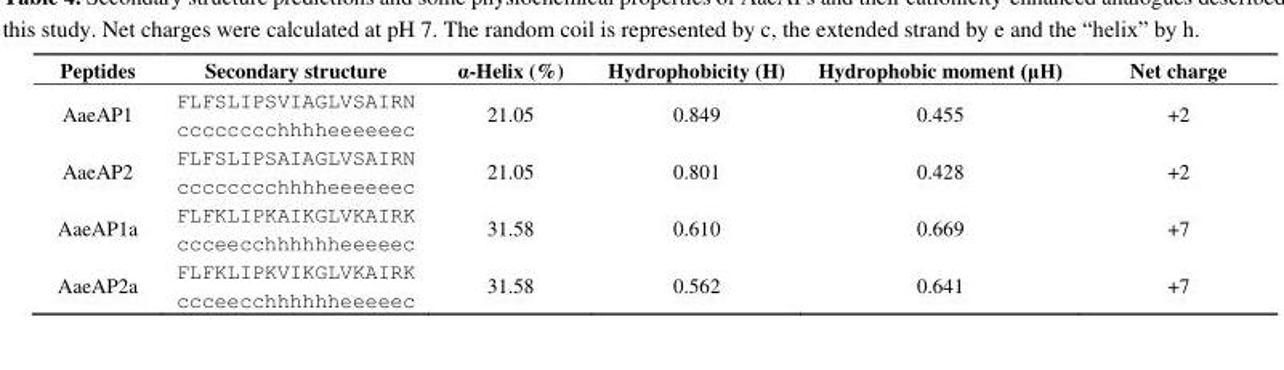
<table><thead><tr><td>Peptides</td><td>Secondary structure</td><td>α-Helix (%)</td><td>Hydrophobicity (H)</td><td>Hydrophobic moment (μH)</td><td>Net charge</td></tr></thead><tbody><tr><td>AaeAP1</td><td>FLFSLIPSVIAGLVSAIRN cccccccchhhheeeeeec</td><td>21.05</td><td>0.849</td><td>0.455</td><td>+2</td></tr><tr><td>AaeAP2</td><td>FLFSLIPSAIAGLVSAIRN cccccccchhhheeeeeec</td><td>21.05</td><td>0.801</td><td>0.428</td><td>+2</td></tr><tr><td>AaeAP1a</td><td>FLFKLIPKAIKGLVKAIRK ccceecchhhhhheeeeec</td><td>31.58</td><td>0.610</td><td>0.669</td><td>+7</td></tr><tr><td>AaeAP2a</td><td>FLFKLIPKVIKGLVKAIRK ccceecchhhhhheeeeec</td><td>31.58</td><td>0.562</td><td>0.641</td><td>+7</td></tr></tbody></table>